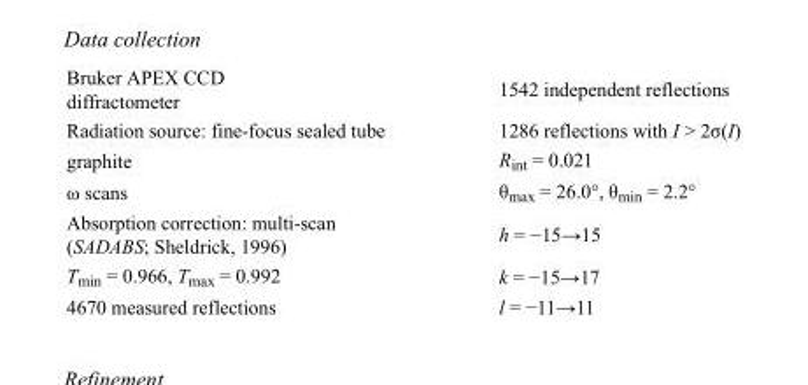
<table><tbody><tr><td>Bruker APEX CCD diffractometer</td><td>1542 independent reflections</td></tr><tr><td>Radiation source: fine-focus sealed tube</td><td>1286 reflections with I &gt; 2σ(I)</td></tr><tr><td>graphite</td><td>R<sub>int</sub> = 0.021</td></tr><tr><td>ω scans</td><td>θ<sub>max</sub> = 26.0°, θ<sub>min</sub> = 2.2°</td></tr><tr><td>Absorption correction: multi-scan (SADABS; Sheldrick, 1996)</td><td>h = −15→15</td></tr><tr><td>T<sub>min</sub> = 0.966, T<sub>max</sub> = 0.992</td><td>k = −15→17</td></tr><tr><td>4670 measured reflections</td><td>l = −11→11</td></tr></tbody></table>